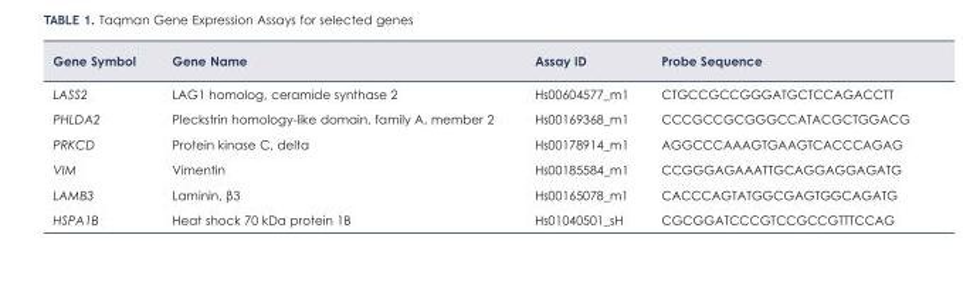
<table><thead><tr><td>Gene Symbol</td><td>Gene Name</td><td>Assay ID</td><td>Probe Sequence</td></tr></thead><tbody><tr><td>LASS2</td><td>LAG1 homolog, ceramide synthase 2</td><td>Hs00604577_m1</td><td>CTGCCGCCGGGATGCTCCAGACCTT</td></tr><tr><td>PHLDA2</td><td>Pleckstrin homology-like domain, family A, member 2</td><td>Hs00169368_m1</td><td>CCCGCCGCGGGCCATACGCTGGACG</td></tr><tr><td>PRKCD</td><td>Protein kinase C, delta</td><td>Hs00178914_m1</td><td>AGGCCCAAAGTGAAGTCACCCAGAG</td></tr><tr><td>VIM</td><td>Vimentin</td><td>Hs00185584_m1</td><td>CCGGGAGAAATTGCAGGAGGAGATG</td></tr><tr><td>LAMB3</td><td>Laminin, β3</td><td>Hs00165078_m1</td><td>CACCCAGTATGGCGAGTGGCAGATG</td></tr><tr><td>HSPA1B</td><td>Heat shock 70 kDa protein 1B</td><td>Hs01040501_sH</td><td>CGCGGATCCCGTCCGCCGTTTCCAG</td></tr></tbody></table>